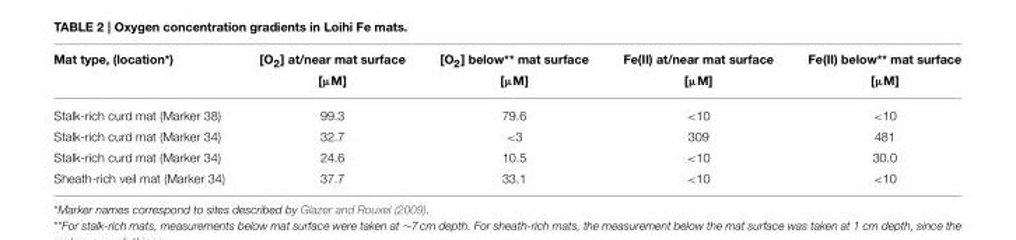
<table><thead><tr><td>Mat type, (location*)</td><td>[O<sub>2</sub>] at/near mat surface [µM]</td><td>[O<sub>2</sub>] below** mat surface [µM]</td><td>Fe(II) at/near mat surface [µM]</td><td>Fe(II) below** mat surface [µM]</td></tr></thead><tbody><tr><td>Stalk-rich curd mat (Marker 38)</td><td>99.3</td><td>79.6</td><td>&lt;10</td><td>&lt;10</td></tr><tr><td>Stalk-rich curd mat (Marker 34)</td><td>32.7</td><td>&lt;3</td><td>309</td><td>481</td></tr><tr><td>Stalk-rich curd mat (Marker 34)</td><td>24.6</td><td>10.5</td><td>&lt;10</td><td>30.0</td></tr><tr><td>Sheath-rich veil mat (Marker 34)</td><td>37.7</td><td>33.1</td><td>&lt;10</td><td>&lt;10</td></tr></tbody></table>